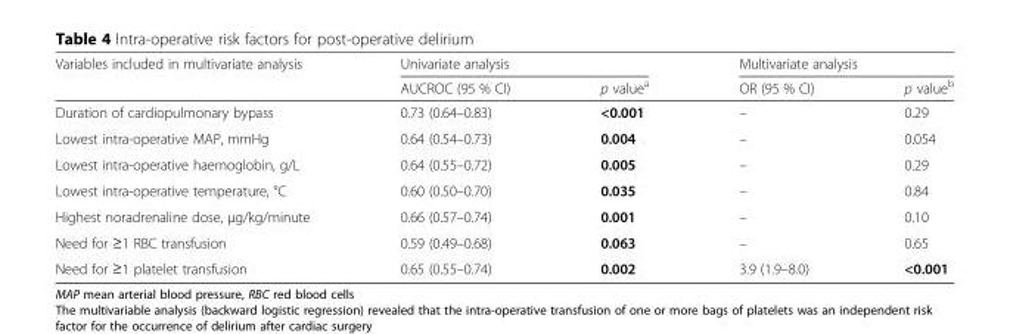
<table><thead><tr><td rowspan="2">Variables included in multivariate analysis</td><td colspan="2">Univariate analysis</td><td colspan="2">Multivariate analysis</td></tr><tr><td>AUCROC (95 % CI)</td><td>p value<sup>a</sup></td><td>OR (95 % CI)</td><td>p value<sup>b</sup></td></tr></thead><tbody><tr><td>Duration of cardiopulmonary bypass</td><td>0.73 (0.64–0.83)</td><td>&lt;0.001</td><td>–</td><td>0.29</td></tr><tr><td>Lowest intra-operative MAP, mmHg</td><td>0.64 (0.54–0.73)</td><td>0.004</td><td>–</td><td>0.054</td></tr><tr><td>Lowest intra-operative haemoglobin, g/L</td><td>0.64 (0.55–0.72)</td><td>0.005</td><td>–</td><td>0.29</td></tr><tr><td>Lowest intra-operative temperature, °C</td><td>0.60 (0.50–0.70)</td><td>0.035</td><td>–</td><td>0.84</td></tr><tr><td>Highest noradrenaline dose, μg/kg/minute</td><td>0.66 (0.57–0.74)</td><td>0.001</td><td>–</td><td>0.10</td></tr><tr><td>Need for ≥1 RBC transfusion</td><td>0.59 (0.49–0.68)</td><td>0.063</td><td>–</td><td>0.65</td></tr><tr><td>Need for ≥1 platelet transfusion</td><td>0.65 (0.55–0.74)</td><td>0.002</td><td>3.9 (1.9–8.0)</td><td>&lt;0.001</td></tr></tbody></table>